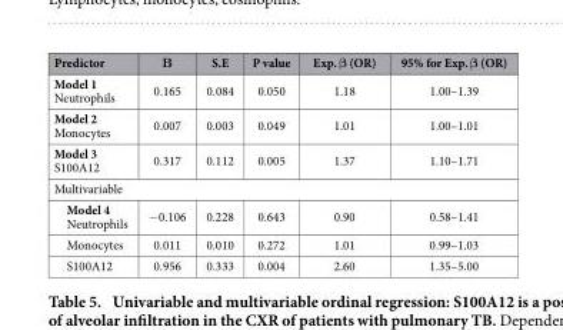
<table><thead><tr><td>Predictor</td><td>Β</td><td>S.E</td><td>P value</td><td>Exp. β (OR)</td><td>95% for Exp. β (OR)</td></tr></thead><tbody><tr><td>Model 1 Neutrophils</td><td>0.165</td><td>0.084</td><td>0.050</td><td>1.18</td><td>1.00–1.39</td></tr><tr><td>Model 2 Monocytes</td><td>0.007</td><td>0.003</td><td>0.049</td><td>1.01</td><td>1.00–1.01</td></tr><tr><td>Model 3 S100A12</td><td>0.317</td><td>0.112</td><td>0.005</td><td>1.37</td><td>1.10–1.71</td></tr><tr><td colspan="6">Multivariable</td></tr><tr><td>Model 4 Neutrophils</td><td>− 0.106</td><td>0.228</td><td>0.643</td><td>0.90</td><td>0.58–1.41</td></tr><tr><td>Monocytes</td><td>0.011</td><td>0.010</td><td>0.272</td><td>1.01</td><td>0.99–1.03</td></tr><tr><td>S100A12</td><td>0.956</td><td>0.333</td><td>0.004</td><td>2.60</td><td>1.35–5.00</td></tr></tbody></table>